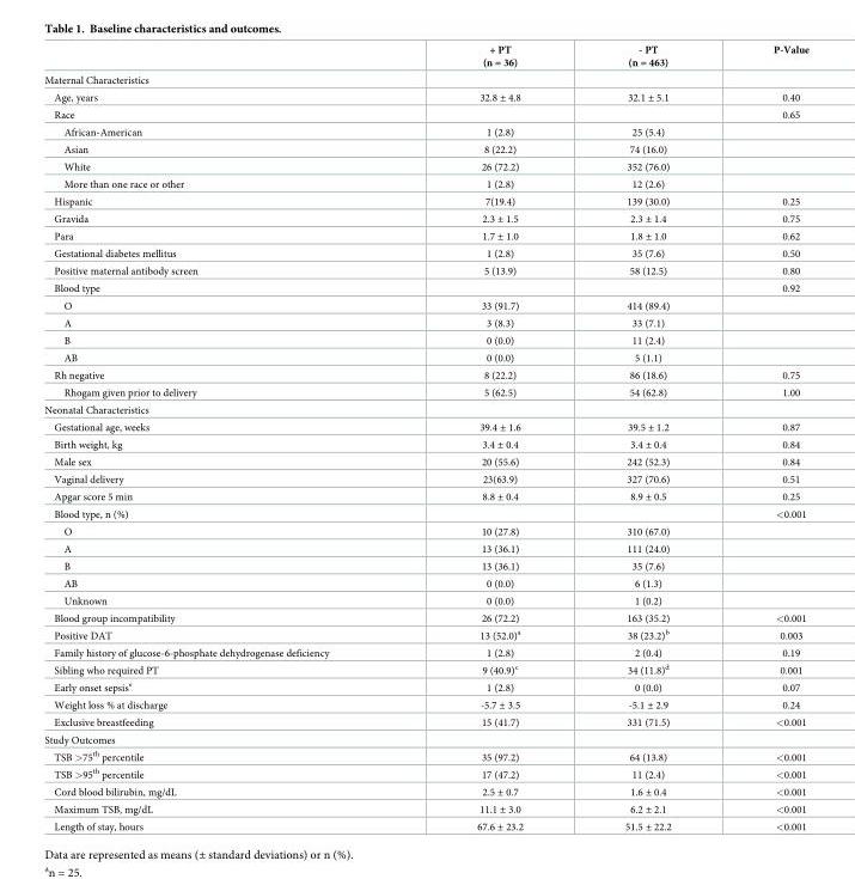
<table><thead><tr><td></td><td>+ PT (n = 36)</td><td>- PT (n = 463)</td><td>P-Value</td></tr></thead><tbody><tr><td colspan="4">Maternal Characteristics</td></tr><tr><td>Age, years</td><td>32.8 ± 4.8</td><td>32.1 ± 5.1</td><td>0.40</td></tr><tr><td>Race</td><td></td><td></td><td>0.65</td></tr><tr><td>African-American</td><td>1 (2.8)</td><td>25 (5.4)</td><td></td></tr><tr><td>Asian</td><td>8 (22.2)</td><td>74 (16.0)</td><td></td></tr><tr><td>White</td><td>26 (72.2)</td><td>352 (76.0)</td><td></td></tr><tr><td>More than one race or other</td><td>1 (2.8)</td><td>12 (2.6)</td><td></td></tr><tr><td>Hispanic</td><td>7(19.4)</td><td>139 (30.0)</td><td>0.25</td></tr><tr><td>Gravida</td><td>2.3 ± 1.5</td><td>2.3 ± 1.4</td><td>0.75</td></tr><tr><td>Para</td><td>1.7 ± 1.0</td><td>1.8 ± 1.0</td><td>0.62</td></tr><tr><td>Gestational diabetes mellitus</td><td>1 (2.8)</td><td>35 (7.6)</td><td>0.50</td></tr><tr><td>Positive maternal antibody screen</td><td>5 (13.9)</td><td>58 (12.5)</td><td>0.80</td></tr><tr><td>Blood type</td><td></td><td></td><td>0.92</td></tr><tr><td>O</td><td>33 (91.7)</td><td>414 (89.4)</td><td></td></tr><tr><td>A</td><td>3 (8.3)</td><td>33 (7.1)</td><td></td></tr><tr><td>B</td><td>0 (0.0)</td><td>11 (2.4)</td><td></td></tr><tr><td>AB</td><td>0 (0.0)</td><td>5 (1.1)</td><td></td></tr><tr><td>Rh negative</td><td>8 (22.2)</td><td>86 (18.6)</td><td>0.75</td></tr><tr><td>Rhogam given prior to delivery</td><td>5 (62.5)</td><td>54 (62.8)</td><td>1.00</td></tr><tr><td colspan="4">Neonatal Characteristics</td></tr><tr><td>Gestational age, weeks</td><td>39.4 ± 1.6</td><td>39.5 ± 1.2</td><td>0.87</td></tr><tr><td>Birth weight, kg</td><td>3.4 ± 0.4</td><td>3.4 ± 0.4</td><td>0.84</td></tr><tr><td>Male sex</td><td>20 (55.6)</td><td>242 (52.3)</td><td>0.84</td></tr><tr><td>Vaginal delivery</td><td>23(63.9)</td><td>327 (70.6)</td><td>0.51</td></tr><tr><td>Apgar score 5 min</td><td>8.8 ± 0.4</td><td>8.9 ± 0.5</td><td>0.25</td></tr><tr><td>Blood type, n (%)</td><td></td><td></td><td>&lt;0.001</td></tr><tr><td>O</td><td>10 (27.8)</td><td>310 (67.0)</td><td></td></tr><tr><td>A</td><td>13 (36.1)</td><td>111 (24.0)</td><td></td></tr><tr><td>B</td><td>13 (36.1)</td><td>35 (7.6)</td><td></td></tr><tr><td>AB</td><td>0 (0.0)</td><td>6 (1.3)</td><td></td></tr><tr><td>Unknown</td><td>0 (0.0)</td><td>1 (0.2)</td><td></td></tr><tr><td>Blood group incompatibility</td><td>26 (72.2)</td><td>163 (35.2)</td><td>&lt;0.001</td></tr><tr><td>Positive DAT</td><td>13 (52.0)<sup>a</sup></td><td>38 (23.2)<sup>b</sup></td><td>0.003</td></tr><tr><td>Family history of glucose-6-phosphate dehydrogenase deficiency</td><td>1 (2.8)</td><td>2 (0.4)</td><td>0.19</td></tr><tr><td>Sibling who required PT</td><td>9 (40.9)<sup>c</sup></td><td>34 (11.8)<sup>d</sup></td><td>0.001</td></tr><tr><td>Early onset sepsis<sup>e</sup></td><td>1 (2.8)</td><td>0 (0.0)</td><td>0.07</td></tr><tr><td>Weight loss % at discharge</td><td>-5.7 ± 3.5</td><td>-5.1 ± 2.9</td><td>0.24</td></tr><tr><td>Exclusive breastfeeding</td><td>15 (41.7)</td><td>331 (71.5)</td><td>&lt;0.001</td></tr><tr><td colspan="4">Study Outcomes</td></tr><tr><td>TSB &gt;75<sup>th</sup> percentile</td><td>35 (97.2)</td><td>64 (13.8)</td><td>&lt;0.001</td></tr><tr><td>TSB &gt;95<sup>th</sup> percentile</td><td>17 (47.2)</td><td>11 (2.4)</td><td>&lt;0.001</td></tr><tr><td>Cord blood bilirubin, mg/dL</td><td>2.5 ± 0.7</td><td>1.6 ± 0.4</td><td>&lt;0.001</td></tr><tr><td>Maximum TSB, mg/dL</td><td>11.1 ± 3.0</td><td>6.2 ± 2.1</td><td>&lt;0.001</td></tr><tr><td>Length of stay, hours</td><td>67.6 ± 23.2</td><td>51.5 ± 22.2</td><td>&lt;0.001</td></tr></tbody></table>